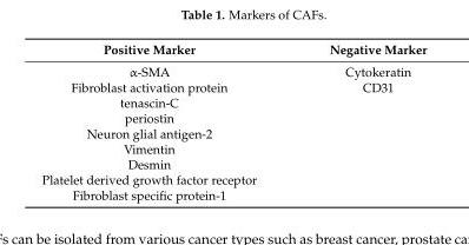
<table><thead><tr><td>Positive Marker</td><td>Negative Marker</td></tr></thead><tbody><tr><td>α-SMA</td><td>Cytokeratin</td></tr><tr><td>Fibroblast activation protein</td><td>CD31</td></tr><tr><td colspan="2">tenascin-C</td></tr><tr><td colspan="2">periostin</td></tr><tr><td colspan="2">Neuron glial antigen-2</td></tr><tr><td colspan="2">Vimentin</td></tr><tr><td colspan="2">Desmin</td></tr><tr><td colspan="2">Platelet derived growth factor receptor</td></tr><tr><td>Fibroblast specific protein-1</td><td></td></tr></tbody></table>